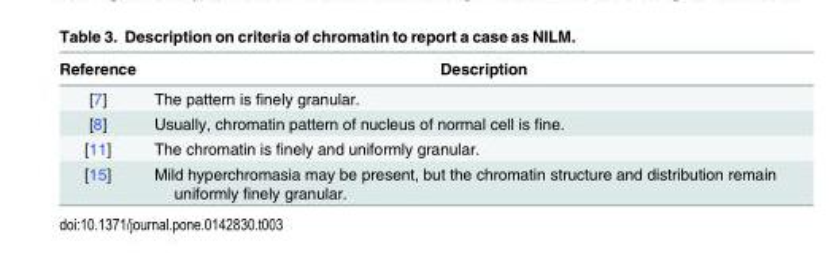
<table><thead><tr><td>Reference</td><td>Description</td></tr></thead><tbody><tr><td>[7]</td><td>The pattern is finely granular.</td></tr><tr><td>[8]</td><td>Usually, chromatin pattern of nucleus of normal cell is fine.</td></tr><tr><td>[11]</td><td>The chromatin is finely and uniformly granular.</td></tr><tr><td>[15]</td><td>Mild hyperchromasia may be present, but the chromatin structure and distribution remain uniformly finely granular.</td></tr></tbody></table>